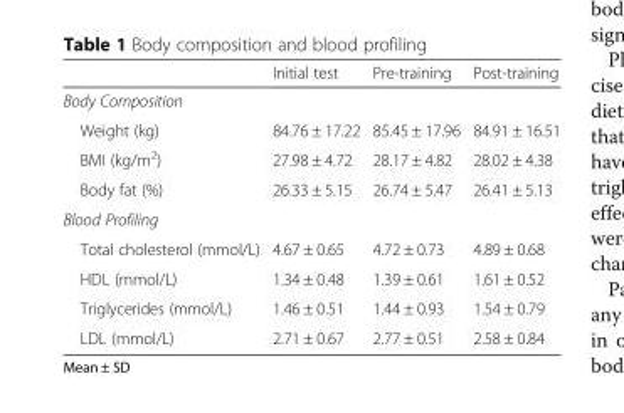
<table><thead><tr><td></td><td>Initial test</td><td>Pre-training</td><td>Post-training</td></tr></thead><tbody><tr><td colspan="4">Body Composition</td></tr><tr><td>Weight (kg)</td><td>84.76 ± 17.22</td><td>85.45 ± 17.96</td><td>84.91 ± 16.51</td></tr><tr><td>BMI (kg/m<sup>2</sup>)</td><td>27.98 ± 4.72</td><td>28.17 ± 4.82</td><td>28.02 ± 4.38</td></tr><tr><td>Body fat (%)</td><td>26.33 ± 5.15</td><td>26.74 ± 5.47</td><td>26.41 ± 5.13</td></tr><tr><td colspan="4">Blood Profiling</td></tr><tr><td>Total cholesterol (mmol/L)</td><td>4.67 ± 0.65</td><td>4.72 ± 0.73</td><td>4.89 ± 0.68</td></tr><tr><td>HDL (mmol/L)</td><td>1.34 ± 0.48</td><td>1.39 ± 0.61</td><td>1.61 ± 0.52</td></tr><tr><td>Triglycerides (mmol/L)</td><td>1.46 ± 0.51</td><td>1.44 ± 0.93</td><td>1.54 ± 0.79</td></tr><tr><td>LDL (mmol/L)</td><td>2.71 ± 0.67</td><td>2.77 ± 0.51</td><td>2.58 ± 0.84</td></tr></tbody></table>